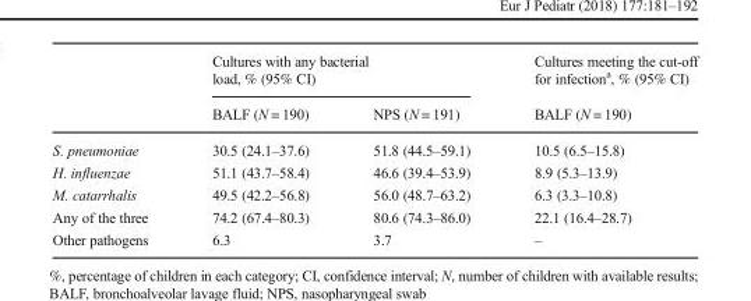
<table><thead><tr><td rowspan="2"></td><td colspan="2">Cultures with any bacterial load, % (95% CI)</td><td rowspan="2">Cultures meeting the cut-off for infection<sup>a</sup>, % (95% CI) BALF (N = 190)</td></tr><tr><td>BALF (N = 190)</td><td>NPS (N = 191)</td></tr></thead><tbody><tr><td>S. pneumoniae</td><td>30.5 (24.1–37.6)</td><td>51.8 (44.5–59.1)</td><td>10.5 (6.5–15.8)</td></tr><tr><td>H. influenzae</td><td>51.1 (43.7–58.4)</td><td>46.6 (39.4–53.9)</td><td>8.9 (5.3–13.9)</td></tr><tr><td>M. catarrhalis</td><td>49.5 (42.2–56.8)</td><td>56.0 (48.7–63.2)</td><td>6.3 (3.3–10.8)</td></tr><tr><td>Any of the three</td><td>74.2 (67.4–80.3)</td><td>80.6 (74.3–86.0)</td><td>22.1 (16.4–28.7)</td></tr><tr><td>Other pathogens</td><td>6.3</td><td>3.7</td><td>–</td></tr></tbody></table>